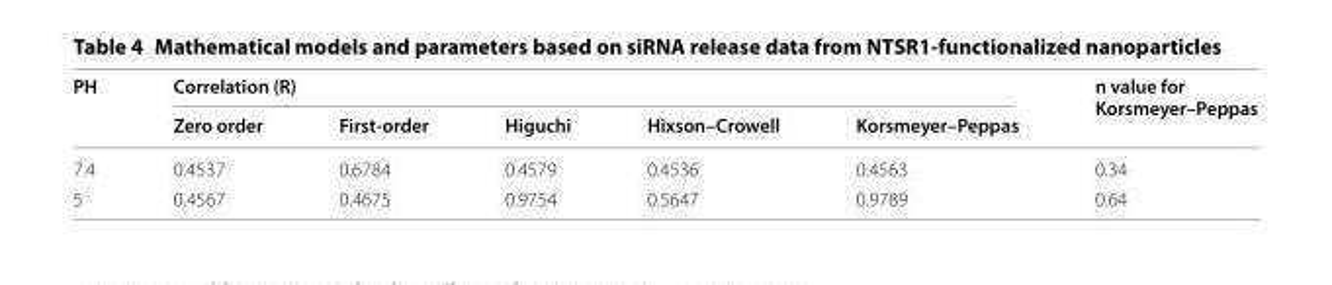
<table><thead><tr><td rowspan="2">PH</td><td colspan="5">Correlation (R)</td><td rowspan="2">n value for Korsmeyer–Peppas</td></tr><tr><td>Zero order</td><td>First‑order</td><td>Higuchi</td><td>Hixson–Crowell</td><td>Korsmeyer–Peppas</td></tr></thead><tbody><tr><td>7.4</td><td>0.4537</td><td>0.6784</td><td>0.4579</td><td>0.4536</td><td>0.4563</td><td>0.34</td></tr><tr><td>5</td><td>0.4567</td><td>0.4675</td><td>0.9754</td><td>0.5647</td><td>0.9789</td><td>0.64</td></tr></tbody></table>